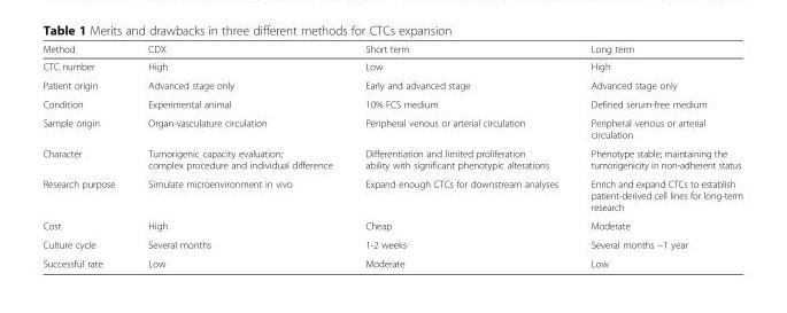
<table><thead><tr><td>Method</td><td>CDX</td><td>Short term</td><td>Long term</td></tr></thead><tbody><tr><td>CTC number</td><td>High</td><td>Low</td><td>High</td></tr><tr><td>Patient origin</td><td>Advanced stage only</td><td>Early and advanced stage</td><td>Advanced stage only</td></tr><tr><td>Condition</td><td>Experimental animal</td><td>10% FCS medium</td><td>Defined serum-free medium</td></tr><tr><td>Sample origin</td><td>Organ-vasculature circulation</td><td>Peripheral venous or arterial circulation</td><td>Peripheral venous or arterial circulation</td></tr><tr><td>Character</td><td>Tumorigenic capacity evaluation; complex procedure and individual difference</td><td>Differentiation and limited proliferation ability with significant phenotypic alterations</td><td>Phenotype stable; maintaining the tumorigenicity in non-adherent status</td></tr><tr><td>Research purpose</td><td>Simulate microenvironment in vivo</td><td>Expand enough CTCs for downstream analyses</td><td>Enrich and expand CTCs to establish patient-derived cell lines for long-term research</td></tr><tr><td>Cost</td><td>High</td><td>Cheap</td><td>Moderate</td></tr><tr><td>Culture cycle</td><td>Several months</td><td>1-2 weeks</td><td>Several months −1 year</td></tr><tr><td>Successful rate</td><td>Low</td><td>Moderate</td><td>Low</td></tr></tbody></table>